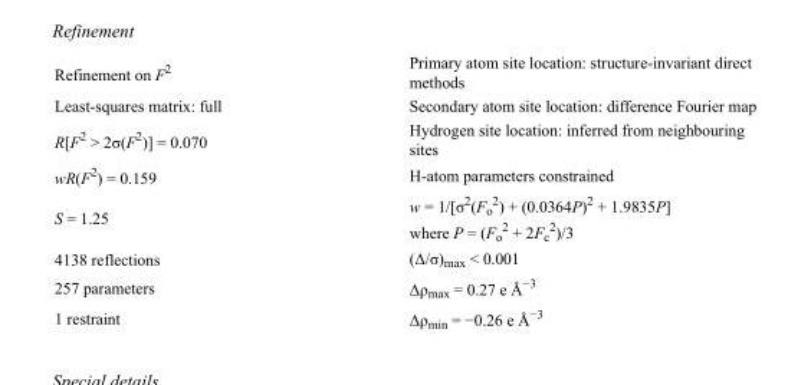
<table><tbody><tr><td>Refinement on F<sup>2</sup></td><td>Primary atom site location: structure-invariant direct methods</td></tr><tr><td>Least-squares matrix: full</td><td>Secondary atom site location: difference Fourier map</td></tr><tr><td>R[F<sup>2</sup> &gt; 2σ(F<sup>2</sup>)] = 0.070</td><td>Hydrogen site location: inferred from neighbouring sites</td></tr><tr><td>wR(F<sup>2</sup>) = 0.159</td><td>H-atom parameters constrained</td></tr><tr><td>S = 1.25</td><td>w = 1/[σ<sup>2</sup>(F<sub>o</sub> <sup>2</sup>) + (0.0364P)<sup>2</sup> + 1.9835P] where P = (F<sub>o</sub> <sup>2</sup> + 2F<sub>c</sub> <sup>2</sup>)/3</td></tr><tr><td>4138 reflections</td><td>(Δ/σ)<sub>max</sub> &lt; 0.001</td></tr><tr><td>257 parameters</td><td>Δρ<sub>max</sub> = 0.27 e Å<sup>−3</sup></td></tr><tr><td>1 restraint</td><td>Δρ<sub>min</sub> = −0.26 e Å<sup>−3</sup></td></tr></tbody></table>